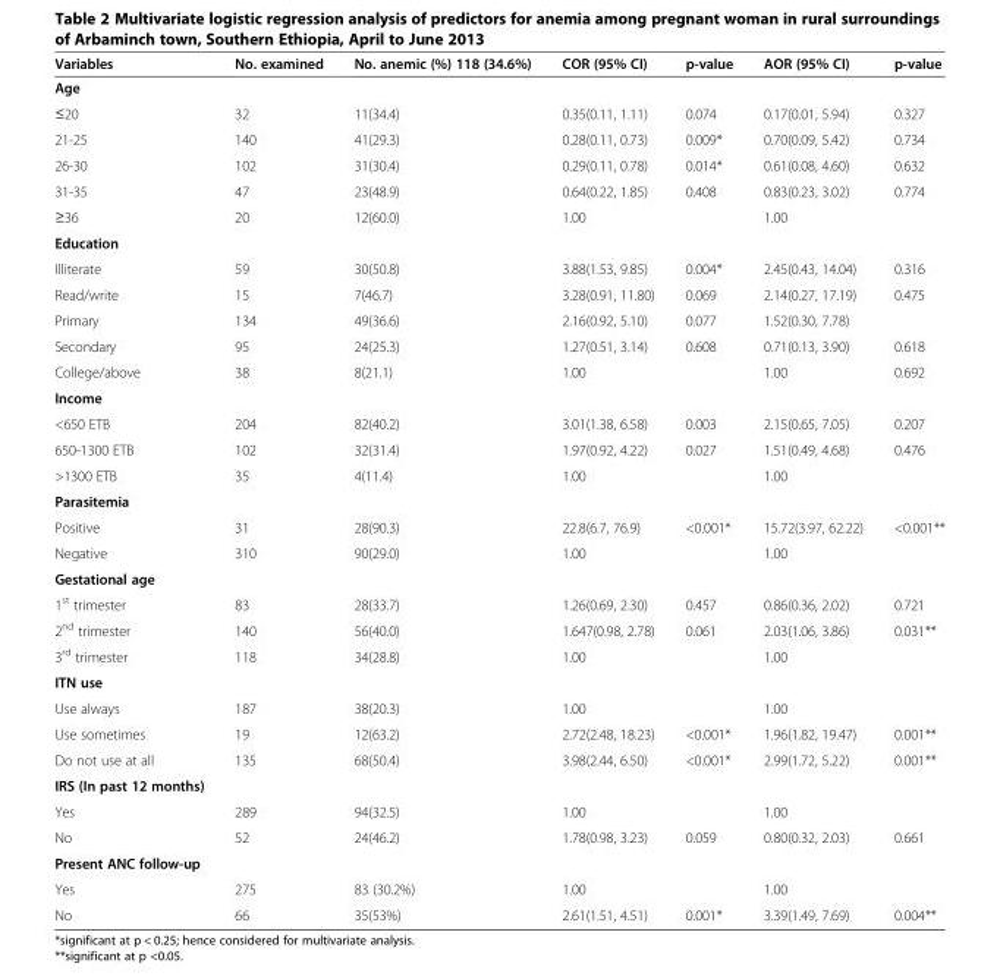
<table><thead><tr><td>Variables</td><td>No. examined</td><td>No. anemic (%) 118 (34.6%)</td><td>COR (95% CI)</td><td>p-value</td><td>AOR (95% CI)</td><td>p-value</td></tr></thead><tbody><tr><td colspan="7">Age</td></tr><tr><td>≤20</td><td>32</td><td>11(34.4)</td><td>0.35(0.11, 1.11)</td><td>0.074</td><td>0.17(0.01, 5.94)</td><td>0.327</td></tr><tr><td>21-25</td><td>140</td><td>41(29.3)</td><td>0.28(0.11, 0.73)</td><td>0.009*</td><td>0.70(0.09, 5.42)</td><td>0.734</td></tr><tr><td>26-30</td><td>102</td><td>31(30.4)</td><td>0.29(0.11, 0.78)</td><td>0.014*</td><td>0.61(0.08, 4.60)</td><td>0.632</td></tr><tr><td>31-35</td><td>47</td><td>23(48.9)</td><td>0.64(0.22, 1.85)</td><td>0.408</td><td>0.83(0.23, 3.02)</td><td>0.774</td></tr><tr><td>≥36</td><td>20</td><td>12(60.0)</td><td>1.00</td><td></td><td>1.00</td><td></td></tr><tr><td colspan="7">Education</td></tr><tr><td>Illiterate</td><td>59</td><td>30(50.8)</td><td>3.88(1.53, 9.85)</td><td>0.004*</td><td>2.45(0.43, 14.04)</td><td>0.316</td></tr><tr><td>Read/write</td><td>15</td><td>7(46.7)</td><td>3.28(0.91, 11.80)</td><td>0.069</td><td>2.14(0.27, 17.19)</td><td>0.475</td></tr><tr><td>Primary</td><td>134</td><td>49(36.6)</td><td>2.16(0.92, 5.10)</td><td>0.077</td><td>1.52(0.30, 7.78)</td><td></td></tr><tr><td>Secondary</td><td>95</td><td>24(25.3)</td><td>1.27(0.51, 3.14)</td><td>0.608</td><td>0.71(0.13, 3.90)</td><td>0.618</td></tr><tr><td>College/above</td><td>38</td><td>8(21.1)</td><td>1.00</td><td></td><td>1.00</td><td>0.692</td></tr><tr><td colspan="7">Income</td></tr><tr><td>&lt;650 ETB</td><td>204</td><td>82(40.2)</td><td>3.01(1.38, 6.58)</td><td>0.003</td><td>2.15(0.65, 7.05)</td><td>0.207</td></tr><tr><td>650-1300 ETB</td><td>102</td><td>32(31.4)</td><td>1.97(0.92, 4.22)</td><td>0.027</td><td>1.51(0.49, 4.68)</td><td>0.476</td></tr><tr><td>&gt;1300 ETB</td><td>35</td><td>4(11.4)</td><td>1.00</td><td></td><td>1.00</td><td></td></tr><tr><td colspan="7">Parasitemia</td></tr><tr><td>Positive</td><td>31</td><td>28(90.3)</td><td>22.8(6.7, 76.9)</td><td>&lt;0.001*</td><td>15.72(3.97, 62.22)</td><td>&lt;0.001**</td></tr><tr><td>Negative</td><td>310</td><td>90(29.0)</td><td>1.00</td><td></td><td>1.00</td><td></td></tr><tr><td colspan="7">Gestational age</td></tr><tr><td>1<sup>st</sup> trimester</td><td>83</td><td>28(33.7)</td><td>1.26(0.69, 2.30)</td><td>0.457</td><td>0.86(0.36, 2.02)</td><td>0.721</td></tr><tr><td>2<sup>nd</sup> trimester</td><td>140</td><td>56(40.0)</td><td>1.647(0.98, 2.78)</td><td>0.061</td><td>2.03(1.06, 3.86)</td><td>0.031**</td></tr><tr><td>3<sup>rd</sup> trimester</td><td>118</td><td>34(28.8)</td><td>1.00</td><td></td><td>1.00</td><td></td></tr><tr><td colspan="7">ITN use</td></tr><tr><td>Use always</td><td>187</td><td>38(20.3)</td><td>1.00</td><td></td><td>1.00</td><td></td></tr><tr><td>Use sometimes</td><td>19</td><td>12(63.2)</td><td>2.72(2.48, 18.23)</td><td>&lt;0.001*</td><td>1.96(1.82, 19.47)</td><td>0.001**</td></tr><tr><td>Do not use at all</td><td>135</td><td>68(50.4)</td><td>3.98(2.44, 6.50)</td><td>&lt;0.001*</td><td>2.99(1.72, 5.22)</td><td>0.001**</td></tr><tr><td colspan="7">IRS (In past 12 months)</td></tr><tr><td>Yes</td><td>289</td><td>94(32.5)</td><td>1.00</td><td></td><td>1.00</td><td></td></tr><tr><td>No</td><td>52</td><td>24(46.2)</td><td>1.78(0.98, 3.23)</td><td>0.059</td><td>0.80(0.32, 2.03)</td><td>0.661</td></tr><tr><td colspan="7">Present ANC follow-up</td></tr><tr><td>Yes</td><td>275</td><td>83 (30.2%)</td><td>1.00</td><td></td><td>1.00</td><td></td></tr><tr><td>No</td><td>66</td><td>35(53%)</td><td>2.61(1.51, 4.51)</td><td>0.001*</td><td>3.39(1.49, 7.69)</td><td>0.004**</td></tr></tbody></table>